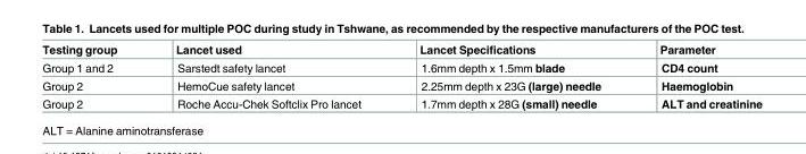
<table><thead><tr><td>Testing group</td><td>Lancet used</td><td>Lancet Specifications</td><td>Parameter</td></tr></thead><tbody><tr><td>Group 1 and 2</td><td>Sarstedt safety lancet</td><td>1.6mm depth x 1.5mm blade</td><td>CD4 count</td></tr><tr><td>Group 2</td><td>HemoCue safety lancet</td><td>2.25mm depth x 23G (large) needle</td><td>Haemoglobin</td></tr><tr><td>Group 2</td><td>Roche Accu-Chek Softclix Pro lancet</td><td>1.7mm depth x 28G (small) needle</td><td>ALT and creatinine</td></tr></tbody></table>